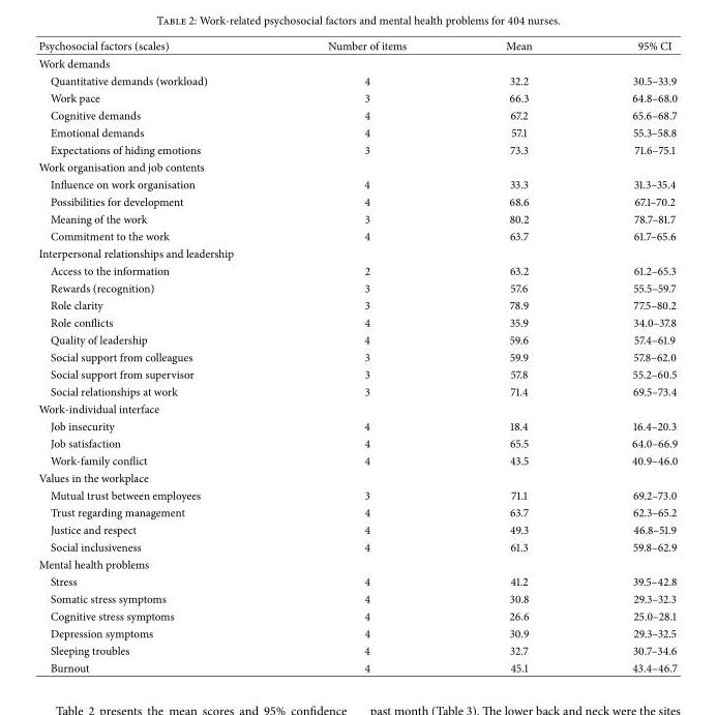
<table><thead><tr><td>Psychosocial factors (scales)</td><td>Number of items</td><td>Mean</td><td>95% CI</td></tr></thead><tbody><tr><td colspan="4">Work demands</td></tr><tr><td>Quantitative demands (workload)</td><td>4</td><td>32.2</td><td>30.5–33.9</td></tr><tr><td>Work pace</td><td>3</td><td>66.3</td><td>64.8–68.0</td></tr><tr><td>Cognitive demands</td><td>4</td><td>67.2</td><td>65.6–68.7</td></tr><tr><td>Emotional demands</td><td>4</td><td>57.1</td><td>55.3–58.8</td></tr><tr><td>Expectations of hiding emotions</td><td>3</td><td>73.3</td><td>71.6–75.1</td></tr><tr><td colspan="4">Work organisation and job contents</td></tr><tr><td>Influence on work organisation</td><td>4</td><td>33.3</td><td>31.3–35.4</td></tr><tr><td>Possibilities for development</td><td>4</td><td>68.6</td><td>67.1–70.2</td></tr><tr><td>Meaning of the work</td><td>3</td><td>80.2</td><td>78.7–81.7</td></tr><tr><td>Commitment to the work</td><td>4</td><td>63.7</td><td>61.7–65.6</td></tr><tr><td colspan="4">Interpersonal relationships and leadership</td></tr><tr><td>Access to the information</td><td>2</td><td>63.2</td><td>61.2–65.3</td></tr><tr><td>Rewards (recognition)</td><td>3</td><td>57.6</td><td>55.5–59.7</td></tr><tr><td>Role clarity</td><td>3</td><td>78.9</td><td>77.5–80.2</td></tr><tr><td>Role conflicts</td><td>4</td><td>35.9</td><td>34.0–37.8</td></tr><tr><td>Quality of leadership</td><td>4</td><td>59.6</td><td>57.4–61.9</td></tr><tr><td>Social support from colleagues</td><td>3</td><td>59.9</td><td>57.8–62.0</td></tr><tr><td>Social support from supervisor</td><td>3</td><td>57.8</td><td>55.2–60.5</td></tr><tr><td>Social relationships at work</td><td>3</td><td>71.4</td><td>69.5–73.4</td></tr><tr><td colspan="4">Work-individual interface</td></tr><tr><td>Job insecurity</td><td>4</td><td>18.4</td><td>16.4–20.3</td></tr><tr><td>Job satisfaction</td><td>4</td><td>65.5</td><td>64.0–66.9</td></tr><tr><td>Work-family conflict</td><td>4</td><td>43.5</td><td>40.9–46.0</td></tr><tr><td colspan="4">Values in the workplace</td></tr><tr><td>Mutual trust between employees</td><td>3</td><td>71.1</td><td>69.2–73.0</td></tr><tr><td>Trust regarding management</td><td>4</td><td>63.7</td><td>62.3–65.2</td></tr><tr><td>Justice and respect</td><td>4</td><td>49.3</td><td>46.8–51.9</td></tr><tr><td>Social inclusiveness</td><td>4</td><td>61.3</td><td>59.8–62.9</td></tr><tr><td colspan="4">Mental health problems</td></tr><tr><td>Stress</td><td>4</td><td>41.2</td><td>39.5–42.8</td></tr><tr><td>Somatic stress symptoms</td><td>4</td><td>30.8</td><td>29.3–32.3</td></tr><tr><td>Cognitive stress symptoms</td><td>4</td><td>26.6</td><td>25.0–28.1</td></tr><tr><td>Depression symptoms</td><td>4</td><td>30.9</td><td>29.3–32.5</td></tr><tr><td>Sleeping troubles</td><td>4</td><td>32.7</td><td>30.7–34.6</td></tr><tr><td>Burnout</td><td>4</td><td>45.1</td><td>43.4–46.7</td></tr></tbody></table>